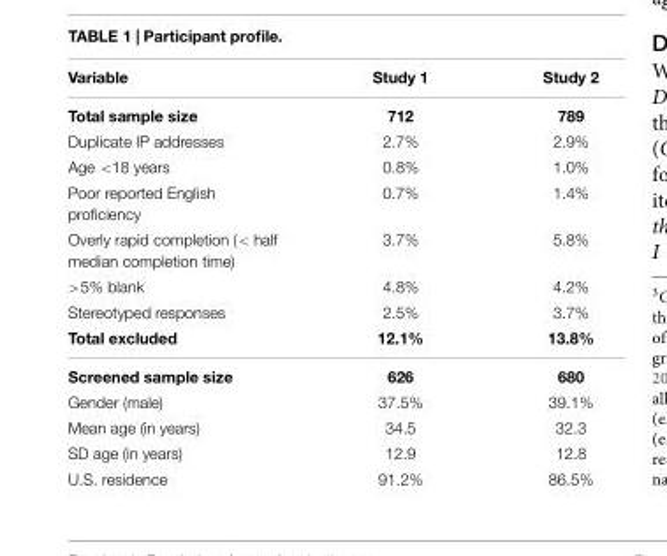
<table><thead><tr><td>Variable</td><td>Study 1</td><td>Study 2</td></tr></thead><tbody><tr><td>Total sample size</td><td>712</td><td>789</td></tr><tr><td>Duplicate IP addresses</td><td>2.7%</td><td>2.9%</td></tr><tr><td>Age &lt;18 years</td><td>0.8%</td><td>1.0%</td></tr><tr><td>Poor reported English proficiency</td><td>0.7%</td><td>1.4%</td></tr><tr><td>Overly rapid completion (&lt; half median completion time)</td><td>3.7%</td><td>5.8%</td></tr><tr><td>&gt;5% blank</td><td>4.8%</td><td>4.2%</td></tr><tr><td>Stereotyped responses</td><td>2.5%</td><td>3.7%</td></tr><tr><td>Total excluded</td><td>12.1%</td><td>13.8%</td></tr><tr><td>Screened sample size</td><td>626</td><td>680</td></tr><tr><td>Gender (male)</td><td>37.5%</td><td>39.1%</td></tr><tr><td>Mean age (in years)</td><td>34.5</td><td>32.3</td></tr><tr><td>SD age (in years)</td><td>12.9</td><td>12.8</td></tr><tr><td>U.S. residence</td><td>91.2%</td><td>86.5%</td></tr></tbody></table>